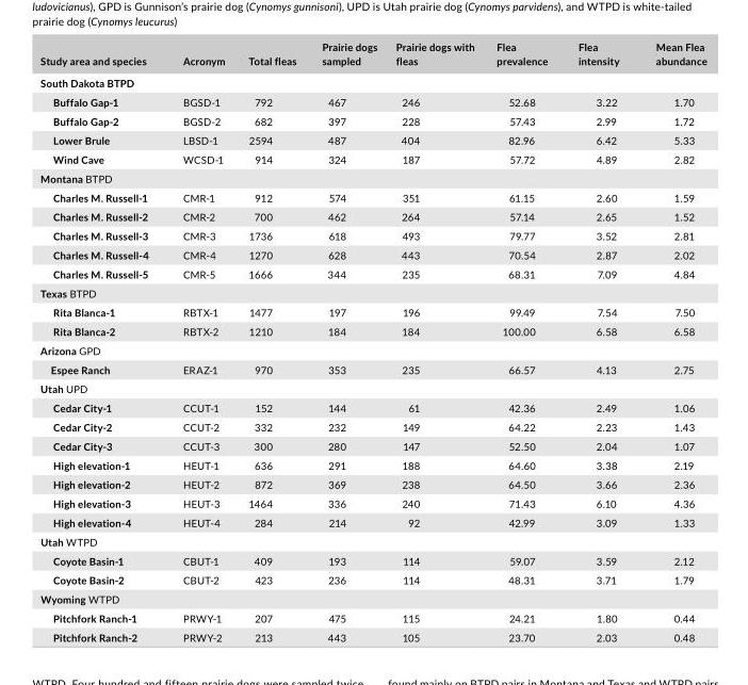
<table><thead><tr><td>Study area and species</td><td>Acronym</td><td>Total fleas</td><td>Prairie dogs sampled</td><td>Prairie dogs with fleas</td><td>Flea prevalence</td><td>Flea intensity</td><td>Mean Flea abundance</td></tr></thead><tbody><tr><td colspan="8">South Dakota BTPD</td></tr><tr><td>Buffalo Gap-1</td><td>BGSD- 1</td><td>792</td><td>467</td><td>246</td><td>52.68</td><td>3.22</td><td>1.70</td></tr><tr><td>Buffalo Gap-2</td><td>BGSD- 2</td><td>682</td><td>397</td><td>228</td><td>57.43</td><td>2.99</td><td>1.72</td></tr><tr><td>Lower Brule</td><td>LBSD- 1</td><td>2594</td><td>487</td><td>404</td><td>82.96</td><td>6.42</td><td>5.33</td></tr><tr><td>Wind Cave</td><td>WCSD- 1</td><td>914</td><td>324</td><td>187</td><td>57.72</td><td>4.89</td><td>2.82</td></tr><tr><td colspan="8">Montana BTPD</td></tr><tr><td>Charles M. Russell-1</td><td>CMR- 1</td><td>912</td><td>574</td><td>351</td><td>61.15</td><td>2.60</td><td>1.59</td></tr><tr><td>Charles M. Russell-2</td><td>CMR- 2</td><td>700</td><td>462</td><td>264</td><td>57.14</td><td>2.65</td><td>1.52</td></tr><tr><td>Charles M. Russell-3</td><td>CMR- 3</td><td>1736</td><td>618</td><td>493</td><td>79.77</td><td>3.52</td><td>2.81</td></tr><tr><td>Charles M. Russell-4</td><td>CMR- 4</td><td>1270</td><td>628</td><td>443</td><td>70.54</td><td>2.87</td><td>2.02</td></tr><tr><td>Charles M. Russell-5</td><td>CMR- 5</td><td>1666</td><td>344</td><td>235</td><td>68.31</td><td>7.09</td><td>4.84</td></tr><tr><td colspan="8">Texas BTPD</td></tr><tr><td>Rita Blanca-1</td><td>RBTX- 1</td><td>1477</td><td>197</td><td>196</td><td>99.49</td><td>7.54</td><td>7.50</td></tr><tr><td>Rita Blanca-2</td><td>RBTX- 2</td><td>1210</td><td>184</td><td>184</td><td>100.00</td><td>6.58</td><td>6.58</td></tr><tr><td colspan="8">Arizona GPD</td></tr><tr><td>Espee Ranch</td><td>ERAZ- 1</td><td>970</td><td>353</td><td>235</td><td>66.57</td><td>4.13</td><td>2.75</td></tr><tr><td colspan="8">Utah UPD</td></tr><tr><td>Cedar City-1</td><td>CCUT- 1</td><td>152</td><td>144</td><td>61</td><td>42.36</td><td>2.49</td><td>1.06</td></tr><tr><td>Cedar City-2</td><td>CCUT- 2</td><td>332</td><td>232</td><td>149</td><td>64.22</td><td>2.23</td><td>1.43</td></tr><tr><td>Cedar City-3</td><td>CCUT- 3</td><td>300</td><td>280</td><td>147</td><td>52.50</td><td>2.04</td><td>1.07</td></tr><tr><td>High elevation-1</td><td>HEUT- 1</td><td>636</td><td>291</td><td>188</td><td>64.60</td><td>3.38</td><td>2.19</td></tr><tr><td>High elevation-2</td><td>HEUT- 2</td><td>872</td><td>369</td><td>238</td><td>64.50</td><td>3.66</td><td>2.36</td></tr><tr><td>High elevation-3</td><td>HEUT- 3</td><td>1464</td><td>336</td><td>240</td><td>71.43</td><td>6.10</td><td>4.36</td></tr><tr><td>High elevation-4</td><td>HEUT- 4</td><td>284</td><td>214</td><td>92</td><td>42.99</td><td>3.09</td><td>1.33</td></tr><tr><td colspan="8">Utah WTPD</td></tr><tr><td>Coyote Basin-1</td><td>CBUT- 1</td><td>409</td><td>193</td><td>114</td><td>59.07</td><td>3.59</td><td>2.12</td></tr><tr><td>Coyote Basin-2</td><td>CBUT- 2</td><td>423</td><td>236</td><td>114</td><td>48.31</td><td>3.71</td><td>1.79</td></tr><tr><td colspan="8">Wyoming WTPD</td></tr><tr><td>Pitchfork Ranch-1</td><td>PRWY- 1</td><td>207</td><td>475</td><td>115</td><td>24.21</td><td>1.80</td><td>0.44</td></tr><tr><td>Pitchfork Ranch-2</td><td>PRWY- 2</td><td>213</td><td>443</td><td>105</td><td>23.70</td><td>2.03</td><td>0.48</td></tr></tbody></table>